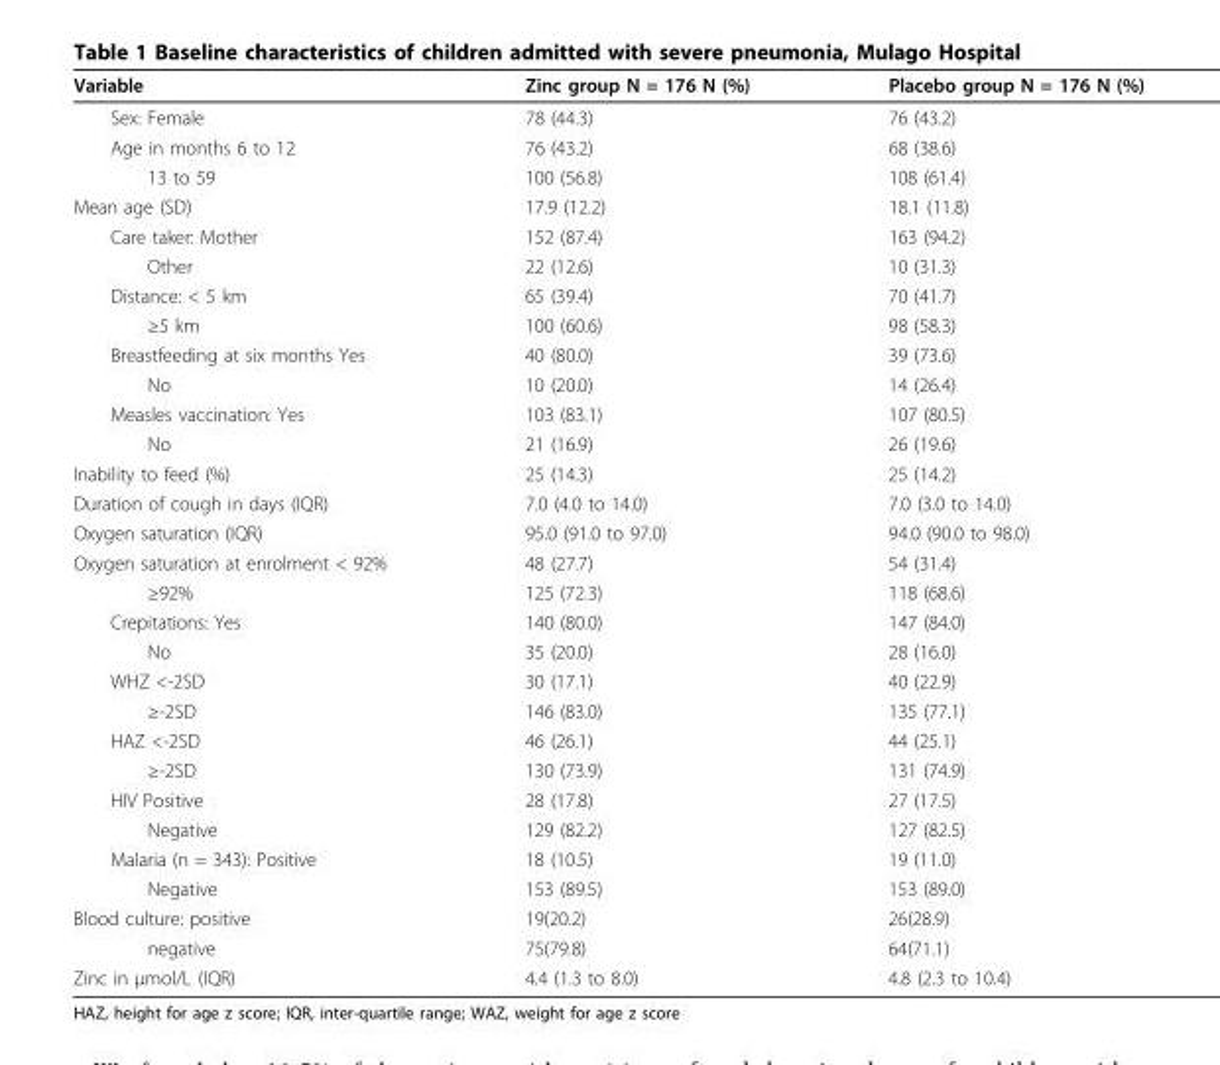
<table><thead><tr><td>Variable</td><td>Zinc group N = 176 N (%)</td><td>Placebo group N = 176 N (%)</td></tr></thead><tbody><tr><td>Sex: Female</td><td>78 (44.3)</td><td>76 (43.2)</td></tr><tr><td>Age in months 6 to 12</td><td>76 (43.2)</td><td>68 (38.6)</td></tr><tr><td>13 to 59</td><td>100 (56.8)</td><td>108 (61.4)</td></tr><tr><td>Mean age (SD)</td><td>17.9 (12.2)</td><td>18.1 (11.8)</td></tr><tr><td>Care taker: Mother</td><td>152 (87.4)</td><td>163 (94.2)</td></tr><tr><td>Other</td><td>22 (12.6)</td><td>10 (31.3)</td></tr><tr><td>Distance: &lt; 5 km</td><td>65 (39.4)</td><td>70 (41.7)</td></tr><tr><td>≥5 km</td><td>100 (60.6)</td><td>98 (58.3)</td></tr><tr><td>Breastfeeding at six months Yes</td><td>40 (80.0)</td><td>39 (73.6)</td></tr><tr><td>No</td><td>10 (20.0)</td><td>14 (26.4)</td></tr><tr><td>Measles vaccination: Yes</td><td>103 (83.1)</td><td>107 (80.5)</td></tr><tr><td>No</td><td>21 (16.9)</td><td>26 (19.6)</td></tr><tr><td>Inability to feed (%)</td><td>25 (14.3)</td><td>25 (14.2)</td></tr><tr><td>Duration of cough in days (IQR)</td><td>7.0 (4.0 to 14.0)</td><td>7.0 (3.0 to 14.0)</td></tr><tr><td>Oxygen saturation (IQR)</td><td>95.0 (91.0 to 97.0)</td><td>94.0 (90.0 to 98.0)</td></tr><tr><td>Oxygen saturation at enrolment &lt; 92%</td><td>48 (27.7)</td><td>54 (31.4)</td></tr><tr><td>≥92%</td><td>125 (72.3)</td><td>118 (68.6)</td></tr><tr><td>Crepitations: Yes</td><td>140 (80.0)</td><td>147 (84.0)</td></tr><tr><td>No</td><td>35 (20.0)</td><td>28 (16.0)</td></tr><tr><td>WHZ &lt;-2SD</td><td>30 (17.1)</td><td>40 (22.9)</td></tr><tr><td>≥-2SD</td><td>146 (83.0)</td><td>135 (77.1)</td></tr><tr><td>HAZ &lt;-2SD</td><td>46 (26.1)</td><td>44 (25.1)</td></tr><tr><td>≥-2SD</td><td>130 (73.9)</td><td>131 (74.9)</td></tr><tr><td>HIV Positive</td><td>28 (17.8)</td><td>27 (17.5)</td></tr><tr><td>Negative</td><td>129 (82.2)</td><td>127 (82.5)</td></tr><tr><td>Malaria (n = 343): Positive</td><td>18 (10.5)</td><td>19 (11.0)</td></tr><tr><td>Negative</td><td>153 (89.5)</td><td>153 (89.0)</td></tr><tr><td>Blood culture: positive</td><td>19(20.2)</td><td>26(28.9)</td></tr><tr><td>negative</td><td>75(79.8)</td><td>64(71.1)</td></tr><tr><td>Zinc in μmol/L (IQR)</td><td>4.4 (1.3 to 8.0)</td><td>4.8 (2.3 to 10.4)</td></tr></tbody></table>